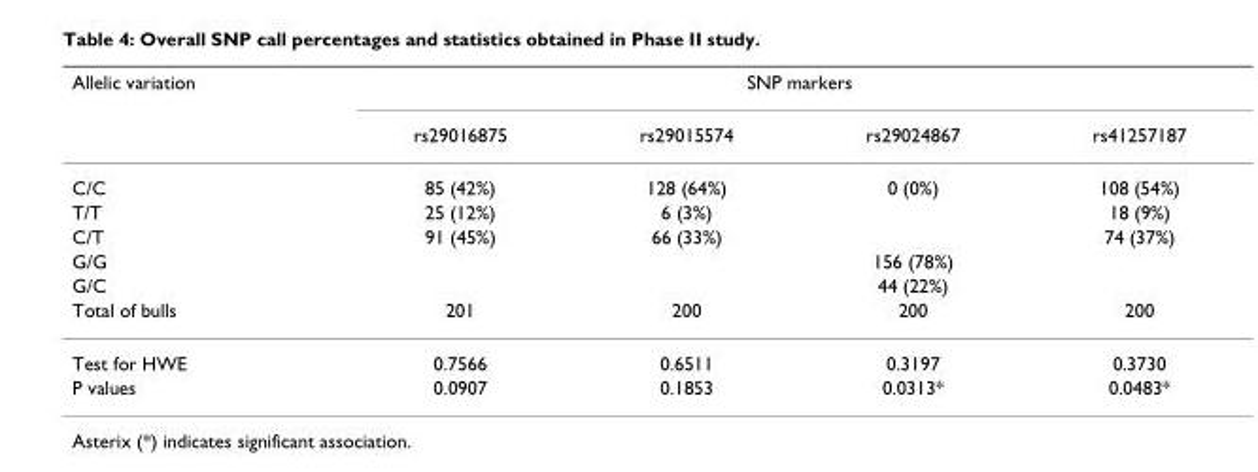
<table><thead><tr><td rowspan="2">Allelic variation</td><td colspan="4">SNP markers</td></tr><tr><td>rs29016875</td><td>rs29015574</td><td>rs29024867</td><td>rs41257187</td></tr></thead><tbody><tr><td>C/C</td><td>85 (42%)</td><td>128 (64%)</td><td>0 (0%)</td><td>108 (54%)</td></tr><tr><td>T/T</td><td>25 (12%)</td><td>6 (3%)</td><td></td><td>18 (9%)</td></tr><tr><td>C/T</td><td>91 (45%)</td><td>66 (33%)</td><td></td><td>74 (37%)</td></tr><tr><td>G/G</td><td></td><td></td><td>156 (78%)</td><td></td></tr><tr><td>G/C</td><td></td><td></td><td>44 (22%)</td><td></td></tr><tr><td>Total of bulls</td><td>201</td><td>200</td><td>200</td><td>200</td></tr><tr><td>Test for HWE</td><td>0.7566</td><td>0.6511</td><td>0.3197</td><td>0.3730</td></tr><tr><td>P values</td><td>0.0907</td><td>0.1853</td><td>0.0313*</td><td>0.0483*</td></tr></tbody></table>